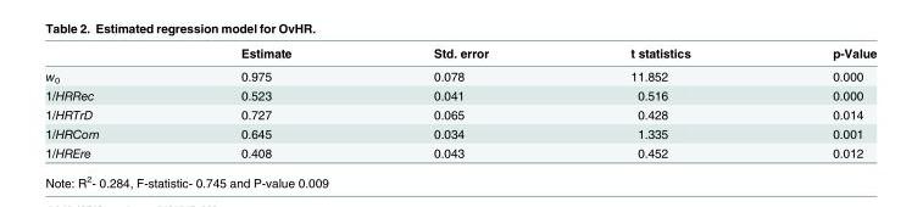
<table><thead><tr><td></td><td>Estimate</td><td>Std. error</td><td>t statistics</td><td>p-Value</td></tr></thead><tbody><tr><td>w<sub>0</sub></td><td>0.975</td><td>0.078</td><td>11.852</td><td>0.000</td></tr><tr><td>1/HRRec</td><td>0.523</td><td>0.041</td><td>0.516</td><td>0.000</td></tr><tr><td>1/HRTrD</td><td>0.727</td><td>0.065</td><td>0.428</td><td>0.014</td></tr><tr><td>1/HRCom</td><td>0.645</td><td>0.034</td><td>1.335</td><td>0.001</td></tr><tr><td>1/HREre</td><td>0.408</td><td>0.043</td><td>0.452</td><td>0.012</td></tr></tbody></table>